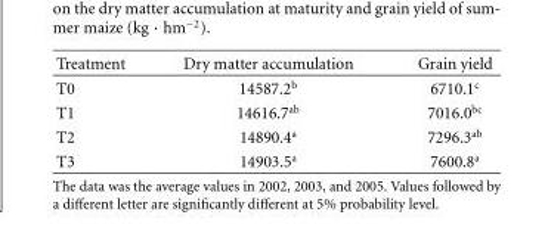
<table><thead><tr><td>Treatment</td><td>Dry matter accumulation</td><td>Grain yield</td></tr></thead><tbody><tr><td>T0</td><td>14587.2<sup>b</sup></td><td>6710.1<sup>c</sup></td></tr><tr><td>T1</td><td>14616.7<sup>ab</sup></td><td>7016.0<sup>bc</sup></td></tr><tr><td>T2</td><td>14890.4<sup>a</sup></td><td>7296.3<sup>ab</sup></td></tr><tr><td>T3</td><td>14903.5<sup>a</sup></td><td>7600.8<sup>a</sup></td></tr></tbody></table>